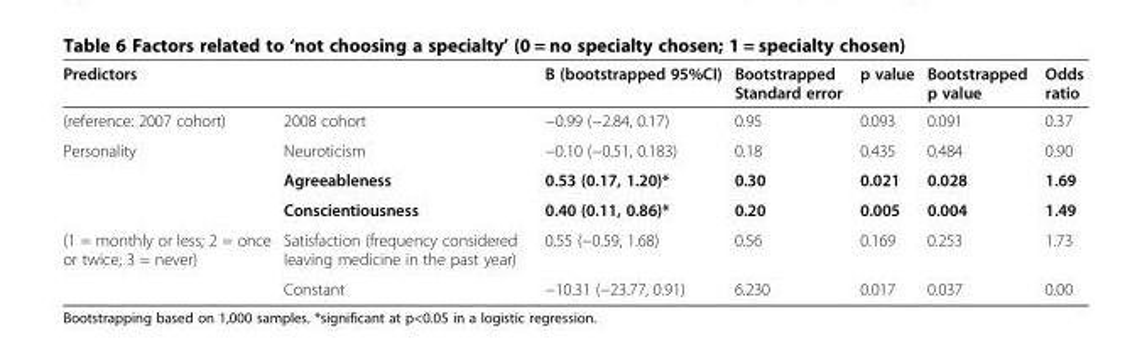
<table><thead><tr><td colspan="2">Predictors</td><td rowspan="2">B (bootstrapped 95%CI) −0.99 (−2.84, 0.17)</td><td rowspan="2">Bootstrapped Standard error 0.95</td><td rowspan="2">p value 0.093</td><td rowspan="2">Bootstrapped p value 0.091</td><td rowspan="2">Odds ratio 0.37</td></tr><tr><td>(reference: 2007 cohort)</td><td>2008 cohort</td></tr></thead><tbody><tr><td rowspan="3">Personality</td><td>Neuroticism</td><td>−0.10 (−0.51, 0.183)</td><td>0.18</td><td>0.435</td><td>0.484</td><td>0.90</td></tr><tr><td>Agreeableness</td><td>0.53 (0.17, 1.20)*</td><td>0.30</td><td>0.021</td><td>0.028</td><td>1.69</td></tr><tr><td>Conscientiousness</td><td>0.40 (0.11, 0.86)*</td><td>0.20</td><td>0.005</td><td>0.004</td><td>1.49</td></tr><tr><td rowspan="2">(1 = monthly or less; 2 = once or twice; 3 = never)</td><td>Satisfaction (frequency considered leaving medicine in the past year)</td><td>0.55 (−0.59, 1.68)</td><td>0.56</td><td>0.169</td><td>0.253</td><td>1.73</td></tr><tr><td>Constant</td><td>−10.31 (−23.77, 0.91)</td><td>6.230</td><td>0.017</td><td>0.037</td><td>0.00</td></tr></tbody></table>